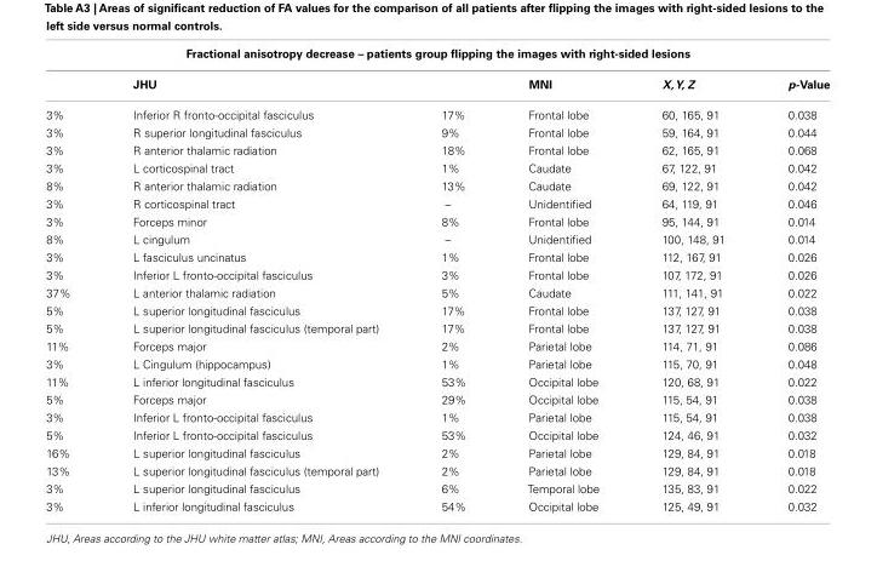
<table><thead><tr><td colspan="6">Fractional anisotropy decrease – patients group flipping the images with right-sided lesions</td></tr><tr><td></td><td>JHU</td><td></td><td>MNI</td><td>X,Y, Z</td><td>p-Value</td></tr></thead><tbody><tr><td>3%</td><td>Inferior R fronto-occipital fasciculus</td><td>17%</td><td>Frontal lobe</td><td>60, 165, 91</td><td>0.038</td></tr><tr><td>3%</td><td>R superior longitudinal fasciculus</td><td>9%</td><td>Frontal lobe</td><td>59, 164, 91</td><td>0.044</td></tr><tr><td>3%</td><td>R anterior thalamic radiation</td><td>18%</td><td>Frontal lobe</td><td>62, 165, 91</td><td>0.068</td></tr><tr><td>3%</td><td>L corticospinal tract</td><td>1%</td><td>Caudate</td><td>67, 122, 91</td><td>0.042</td></tr><tr><td>8%</td><td>R anterior thalamic radiation</td><td>13%</td><td>Caudate</td><td>69, 122, 91</td><td>0.042</td></tr><tr><td>3%</td><td>R corticospinal tract</td><td>–</td><td>Unidentified</td><td>64, 119, 91</td><td>0.046</td></tr><tr><td>3%</td><td>Forceps minor</td><td>8%</td><td>Frontal lobe</td><td>95, 144, 91</td><td>0.014</td></tr><tr><td>8%</td><td>L cingulum</td><td>–</td><td>Unidentified</td><td>100, 148, 91</td><td>0.014</td></tr><tr><td>3%</td><td>L fasciculus uncinatus</td><td>1%</td><td>Frontal lobe</td><td>112, 167, 91</td><td>0.026</td></tr><tr><td>3%</td><td>Inferior L fronto-occipital fasciculus</td><td>3%</td><td>Frontal lobe</td><td>107, 172, 91</td><td>0.026</td></tr><tr><td>37%</td><td>L anterior thalamic radiation</td><td>5%</td><td>Caudate</td><td>111, 141, 91</td><td>0.022</td></tr><tr><td>5%</td><td>L superior longitudinal fasciculus</td><td>17%</td><td>Frontal lobe</td><td>137, 127, 91</td><td>0.038</td></tr><tr><td>5%</td><td>L superior longitudinal fasciculus (temporal part)</td><td>17%</td><td>Frontal lobe</td><td>137, 127, 91</td><td>0.038</td></tr><tr><td>11%</td><td>Forceps major</td><td>2%</td><td>Parietal lobe</td><td>114, 71, 91</td><td>0.086</td></tr><tr><td>3%</td><td>L Cingulum (hippocampus)</td><td>1%</td><td>Parietal lobe</td><td>115, 70, 91</td><td>0.048</td></tr><tr><td>11%</td><td>L inferior longitudinal fasciculus</td><td>53%</td><td>Occipital lobe</td><td>120, 68, 91</td><td>0.022</td></tr><tr><td>5%</td><td>Forceps major</td><td>29%</td><td>Occipital lobe</td><td>115, 54, 91</td><td>0.038</td></tr><tr><td>3%</td><td>Inferior L fronto-occipital fasciculus</td><td>1%</td><td>Parietal lobe</td><td>115, 54, 91</td><td>0.038</td></tr><tr><td>5%</td><td>Inferior L fronto-occipital fasciculus</td><td>53%</td><td>Occipital lobe</td><td>124, 46, 91</td><td>0.032</td></tr><tr><td>16%</td><td>L superior longitudinal fasciculus</td><td>2%</td><td>Parietal lobe</td><td>129, 84, 91</td><td>0.018</td></tr><tr><td>13%</td><td>L superior longitudinal fasciculus (temporal part)</td><td>2%</td><td>Parietal lobe</td><td>129, 84, 91</td><td>0.018</td></tr><tr><td>3%</td><td>L superior longitudinal fasciculus</td><td>6%</td><td>Temporal lobe</td><td>135, 83, 91</td><td>0.022</td></tr><tr><td>3%</td><td>L inferior longitudinal fasciculus</td><td>54%</td><td>Occipital lobe</td><td>125, 49, 91</td><td>0.032</td></tr></tbody></table>